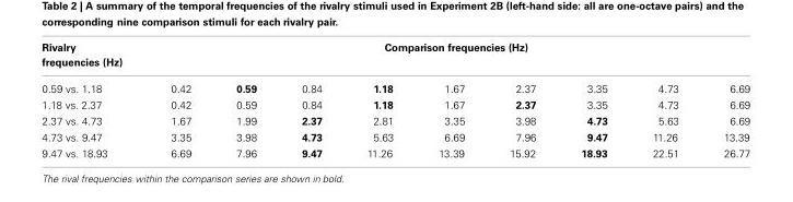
<table><thead><tr><td rowspan="2">Rivalry frequencies (Hz) 0.59 vs. 1.18</td><td colspan="9">Comparison frequencies (Hz)</td></tr><tr><td>0.42</td><td>0.59</td><td>0.84</td><td>1.18</td><td>1.67</td><td>2.37</td><td>3.35</td><td>4.73</td><td>6.69</td></tr></thead><tbody><tr><td>1.18 vs. 2.37</td><td>0.42</td><td>0.59</td><td>0.84</td><td>1.18</td><td>1.67</td><td>2.37</td><td>3.35</td><td>4.73</td><td>6.69</td></tr><tr><td>2.37 vs. 4.73</td><td>1.67</td><td>1.99</td><td>2.37</td><td>2.81</td><td>3.35</td><td>3.98</td><td>4.73</td><td>5.63</td><td>6.69</td></tr><tr><td>4.73 vs. 9.47</td><td>3.35</td><td>3.98</td><td>4.73</td><td>5.63</td><td>6.69</td><td>7.96</td><td>9.47</td><td>11.26</td><td>13.39</td></tr><tr><td>9.47 vs. 18.93</td><td>6.69</td><td>7.96</td><td>9.47</td><td>11.26</td><td>13.39</td><td>15.92</td><td>18.93</td><td>22.51</td><td>26.77</td></tr></tbody></table>